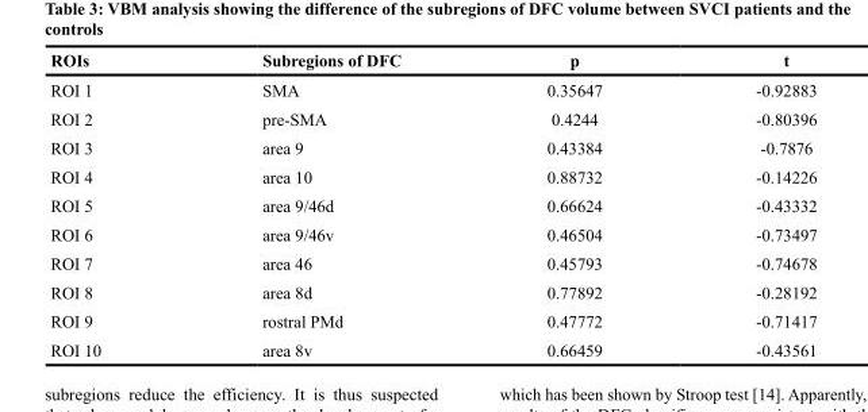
<table><thead><tr><td>ROIs</td><td>Subregions of DFC</td><td>p</td><td>t</td></tr></thead><tbody><tr><td>ROI 1</td><td>SMA</td><td>0.35647</td><td>-0.92883</td></tr><tr><td>ROI 2</td><td>pre-SMA</td><td>0.4244</td><td>-0.80396</td></tr><tr><td>ROI 3</td><td>area 9</td><td>0.43384</td><td>-0.7876</td></tr><tr><td>ROI 4</td><td>area 10</td><td>0.88732</td><td>-0.14226</td></tr><tr><td>ROI 5</td><td>area 9/46d</td><td>0.66624</td><td>-0.43332</td></tr><tr><td>ROI 6</td><td>area 9/46v</td><td>0.46504</td><td>-0.73497</td></tr><tr><td>ROI 7</td><td>area 46</td><td>0.45793</td><td>-0.74678</td></tr><tr><td>ROI 8</td><td>area 8d</td><td>0.77892</td><td>-0.28192</td></tr><tr><td>ROI 9</td><td>rostral PMd</td><td>0.47772</td><td>-0.71417</td></tr><tr><td>ROI 10</td><td>area 8v</td><td>0.66459</td><td>-0.43561</td></tr></tbody></table>